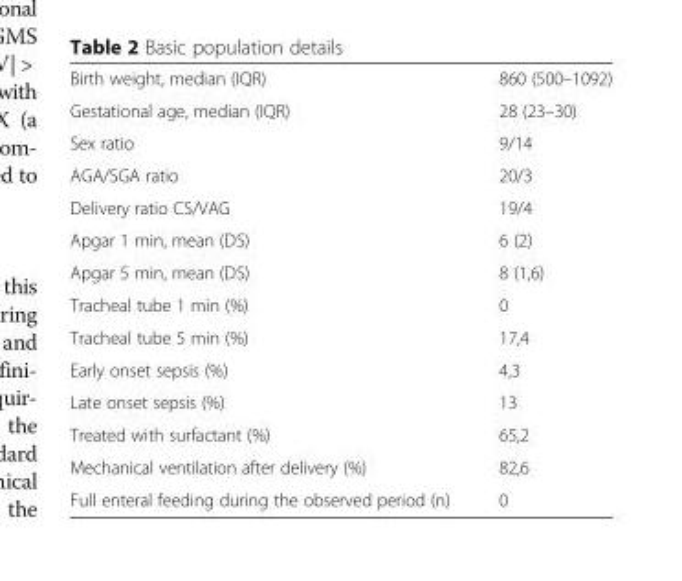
<table><tbody><tr><td>Birth weight, median (IQR)</td><td>860 (500–1092)</td></tr><tr><td>Gestational age, median (IQR)</td><td>28 (23–30)</td></tr><tr><td>Sex ratio</td><td>9/14</td></tr><tr><td>AGA/SGA ratio</td><td>20/3</td></tr><tr><td>Delivery ratio CS/VAG</td><td>19/4</td></tr><tr><td>Apgar 1 min, mean (DS)</td><td>6 (2)</td></tr><tr><td>Apgar 5 min, mean (DS)</td><td>8 (1,6)</td></tr><tr><td>Tracheal tube 1 min (%)</td><td>0</td></tr><tr><td>Tracheal tube 5 min (%)</td><td>17,4</td></tr><tr><td>Early onset sepsis (%)</td><td>4,3</td></tr><tr><td>Late onset sepsis (%)</td><td>13</td></tr><tr><td>Treated with surfactant (%)</td><td>65,2</td></tr><tr><td>Mechanical ventilation after delivery (%)</td><td>82,6</td></tr><tr><td>Full enteral feeding during the observed period (n)</td><td>0</td></tr></tbody></table>